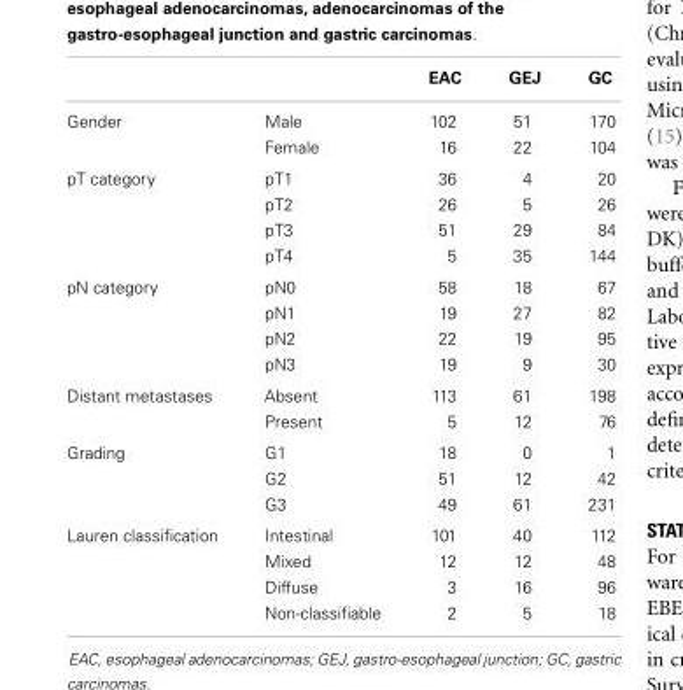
<table><thead><tr><td></td><td></td><td>EAC</td><td>GEJ</td><td>GC</td></tr></thead><tbody><tr><td rowspan="2">Gender</td><td>Male</td><td>102</td><td>51</td><td>170</td></tr><tr><td>Female</td><td>16</td><td>22</td><td>104</td></tr><tr><td rowspan="4">pT category</td><td>pT1</td><td>36</td><td>4</td><td>20</td></tr><tr><td>pT2</td><td>26</td><td>5</td><td>26</td></tr><tr><td>pT3</td><td>51</td><td>29</td><td>84</td></tr><tr><td>pT4</td><td>5</td><td>35</td><td>144</td></tr><tr><td rowspan="4">pN category</td><td>pN0</td><td>58</td><td>18</td><td>67</td></tr><tr><td>pN1</td><td>19</td><td>27</td><td>82</td></tr><tr><td>pN2</td><td>22</td><td>19</td><td>95</td></tr><tr><td>pN3</td><td>19</td><td>9</td><td>30</td></tr><tr><td rowspan="2">Distant metastases</td><td>Absent</td><td>113</td><td>61</td><td>198</td></tr><tr><td>Present</td><td>5</td><td>12</td><td>76</td></tr><tr><td rowspan="3">Grading</td><td>G1</td><td>18</td><td>0</td><td>1</td></tr><tr><td>G2</td><td>51</td><td>12</td><td>42</td></tr><tr><td>G3</td><td>49</td><td>61</td><td>231</td></tr><tr><td rowspan="4">Lauren classification</td><td>Intestinal</td><td>101</td><td>40</td><td>112</td></tr><tr><td>Mixed</td><td>12</td><td>12</td><td>48</td></tr><tr><td>Diffuse</td><td>3</td><td>16</td><td>96</td></tr><tr><td>Non-classifiable</td><td>2</td><td>5</td><td>18</td></tr></tbody></table>